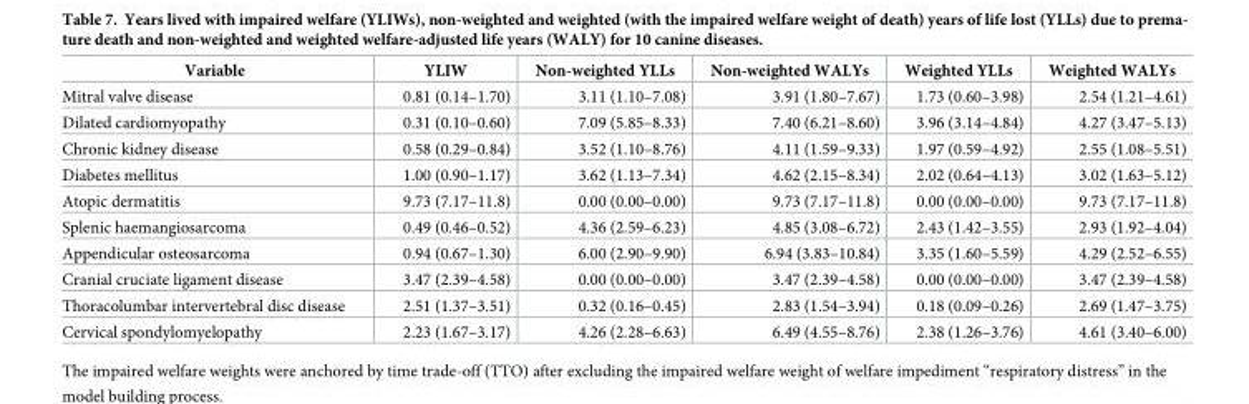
<table><thead><tr><td>Variable</td><td>YLIW</td><td>Non-weighted YLLs</td><td>Non-weighted WALYs</td><td>Weighted YLLs</td><td>Weighted WALYs</td></tr></thead><tbody><tr><td>Mitral valve disease</td><td>0.81 (0.14–1.70)</td><td>3.11 (1.10–7.08)</td><td>3.91 (1.80–7.67)</td><td>1.73 (0.60–3.98)</td><td>2.54 (1.21–4.61)</td></tr><tr><td>Dilated cardiomyopathy</td><td>0.31 (0.10–0.60)</td><td>7.09 (5.85–8.33)</td><td>7.40 (6.21–8.60)</td><td>3.96 (3.14–4.84)</td><td>4.27 (3.47–5.13)</td></tr><tr><td>Chronic kidney disease</td><td>0.58 (0.29–0.84)</td><td>3.52 (1.10–8.76)</td><td>4.11 (1.59–9.33)</td><td>1.97 (0.59–4.92)</td><td>2.55 (1.08–5.51)</td></tr><tr><td>Diabetes mellitus</td><td>1.00 (0.90–1.17)</td><td>3.62 (1.13–7.34)</td><td>4.62 (2.15–8.34)</td><td>2.02 (0.64–4.13)</td><td>3.02 (1.63–5.12)</td></tr><tr><td>Atopic dermatitis</td><td>9.73 (7.17–11.8)</td><td>0.00 (0.00–0.00)</td><td>9.73 (7.17–11.8)</td><td>0.00 (0.00–0.00)</td><td>9.73 (7.17–11.8)</td></tr><tr><td>Splenic haemangiosarcoma</td><td>0.49 (0.46–0.52)</td><td>4.36 (2.59–6.23)</td><td>4.85 (3.08–6.72)</td><td>2.43 (1.42–3.55)</td><td>2.93 (1.92–4.04)</td></tr><tr><td>Appendicular osteosarcoma</td><td>0.94 (0.67–1.30)</td><td>6.00 (2.90–9.90)</td><td>6.94 (3.83–10.84)</td><td>3.35 (1.60–5.59)</td><td>4.29 (2.52–6.55)</td></tr><tr><td>Cranial cruciate ligament disease</td><td>3.47 (2.39–4.58)</td><td>0.00 (0.00–0.00)</td><td>3.47 (2.39–4.58)</td><td>0.00 (0.00–0.00)</td><td>3.47 (2.39–4.58)</td></tr><tr><td>Thoracolumbar intervertebral disc disease</td><td>2.51 (1.37–3.51)</td><td>0.32 (0.16–0.45)</td><td>2.83 (1.54–3.94)</td><td>0.18 (0.09–0.26)</td><td>2.69 (1.47–3.75)</td></tr><tr><td>Cervical spondylomyelopathy</td><td>2.23 (1.67–3.17)</td><td>4.26 (2.28–6.63)</td><td>6.49 (4.55–8.76)</td><td>2.38 (1.26–3.76)</td><td>4.61 (3.40–6.00)</td></tr></tbody></table>